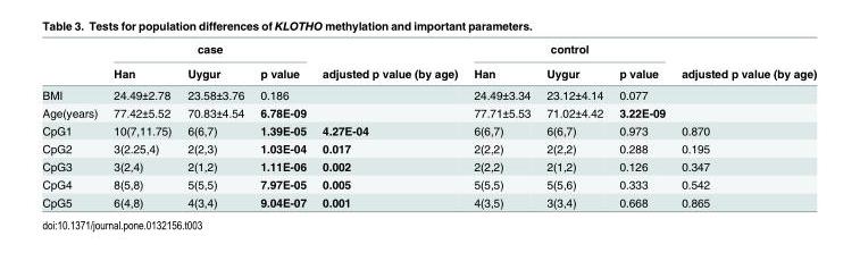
<table><thead><tr><td rowspan="2"></td><td colspan="3">case</td><td rowspan="2">adjusted p value (by age)</td><td colspan="3">control</td><td rowspan="2">adjusted p value (by age)</td></tr><tr><td>Han</td><td>Uygur</td><td>p value</td><td>Han</td><td>Uygur</td><td>p value</td></tr></thead><tbody><tr><td>BMI</td><td>24.49±2.78</td><td>23.58±3.76</td><td>0.186</td><td></td><td>24.49±3.34</td><td>23.12±4.14</td><td>0.077</td><td></td></tr><tr><td>Age(years)</td><td>77.42±5.52</td><td>70.83±4.54</td><td>6.78E-09</td><td></td><td>77.71±5.53</td><td>71.02±4.42</td><td>3.22E-09</td><td></td></tr><tr><td>CpG1</td><td>10(7,11.75)</td><td>6(6,7)</td><td>1.39E-05</td><td>4.27E-04</td><td>6(6,7)</td><td>6(6,7)</td><td>0.973</td><td>0.870</td></tr><tr><td>CpG2</td><td>3(2.25,4)</td><td>2(2,3)</td><td>1.03E-04</td><td>0.017</td><td>2(2,2)</td><td>2(2,2)</td><td>0.288</td><td>0.195</td></tr><tr><td>CpG3</td><td>3(2,4)</td><td>2(1,2)</td><td>1.11E-06</td><td>0.002</td><td>2(2,2)</td><td>2(1,2)</td><td>0.126</td><td>0.347</td></tr><tr><td>CpG4</td><td>8(5,8)</td><td>5(5,5)</td><td>7.97E-05</td><td>0.005</td><td>5(5,5)</td><td>5(5,6)</td><td>0.333</td><td>0.542</td></tr><tr><td>CpG5</td><td>6(4,8)</td><td>4(3,4)</td><td>9.04E-07</td><td>0.001</td><td>4(3,5)</td><td>3(3,4)</td><td>0.668</td><td>0.865</td></tr></tbody></table>